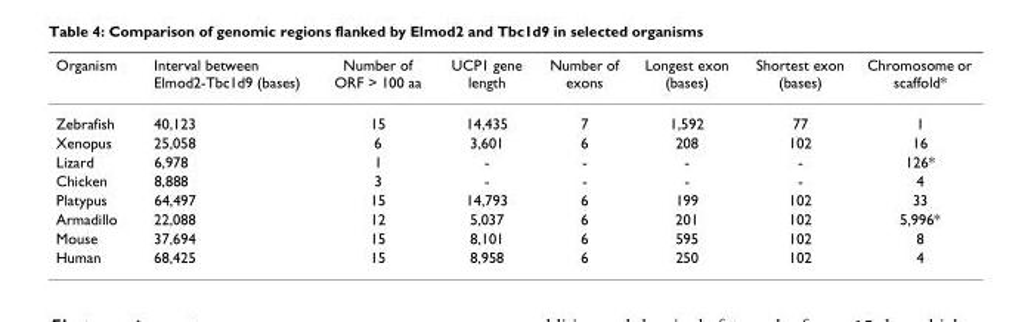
<table><thead><tr><td>Organism</td><td>Interval between Elmod2-Tbc1d9 (bases)</td><td>Number of ORF &gt; 100 aa</td><td>UCP1 gene length</td><td>Number of exons</td><td>Longest exon (bases)</td><td>Shortest exon (bases)</td><td>Chromosome or scaffold*</td></tr></thead><tbody><tr><td>Zebrafish</td><td>40,123</td><td>15</td><td>14,435</td><td>7</td><td>1,592</td><td>77</td><td>1</td></tr><tr><td>Xenopus</td><td>25,058</td><td>6</td><td>3,601</td><td>6</td><td>208</td><td>102</td><td>16</td></tr><tr><td>Lizard</td><td>6,978</td><td>1</td><td>-</td><td>-</td><td>-</td><td>-</td><td>126*</td></tr><tr><td>Chicken</td><td>8,888</td><td>3</td><td>-</td><td>-</td><td>-</td><td>-</td><td>4</td></tr><tr><td>Platypus</td><td>64,497</td><td>15</td><td>14,793</td><td>6</td><td>199</td><td>102</td><td>33</td></tr><tr><td>Armadillo</td><td>22,088</td><td>12</td><td>5,037</td><td>6</td><td>201</td><td>102</td><td>5,996*</td></tr><tr><td>Mouse</td><td>37,694</td><td>15</td><td>8,101</td><td>6</td><td>595</td><td>102</td><td>8</td></tr><tr><td>Human</td><td>68,425</td><td>15</td><td>8,958</td><td>6</td><td>250</td><td>102</td><td>4</td></tr></tbody></table>